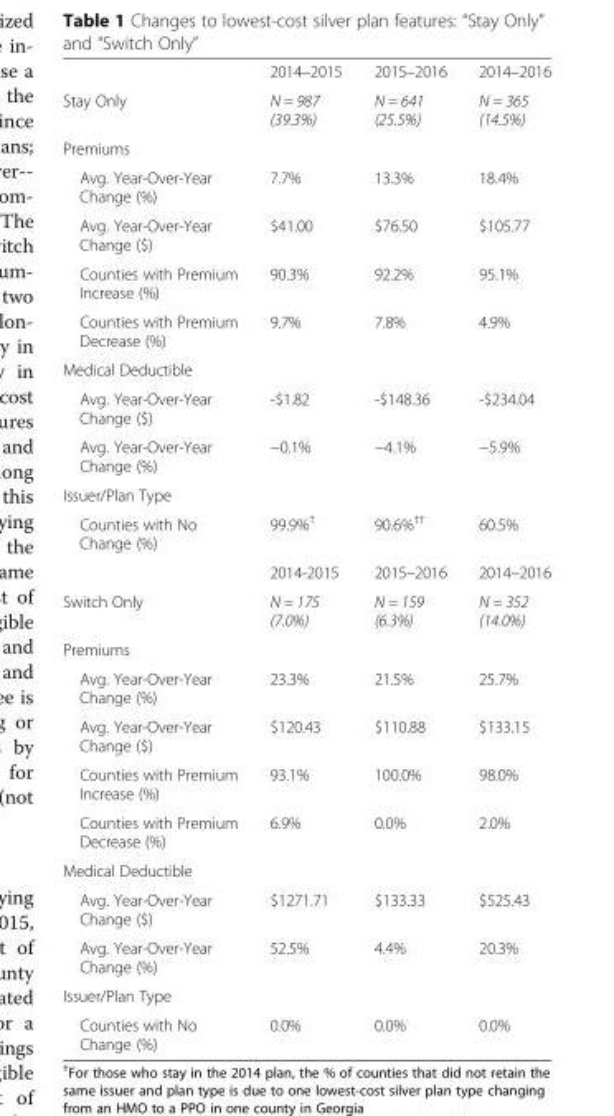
<table><thead><tr><td></td><td>2014–2015</td><td>2015–2016</td><td>2014–2016</td></tr></thead><tbody><tr><td>Stay Only</td><td>N = 987 (39.3%)</td><td>N = 641 (25.5%)</td><td>N = 365 (14.5%)</td></tr><tr><td colspan="4">Premiums</td></tr><tr><td>Avg. Year-Over-Year Change (%)</td><td>7.7%</td><td>13.3%</td><td>18.4%</td></tr><tr><td>Avg. Year-Over-Year Change ($)</td><td>$41.00</td><td>$76.50</td><td>$105.77</td></tr><tr><td>Counties with Premium Increase (%)</td><td>90.3%</td><td>92.2%</td><td>95.1%</td></tr><tr><td>Counties with Premium Decrease (%)</td><td>9.7%</td><td>7.8%</td><td>4.9%</td></tr><tr><td colspan="4">Medical Deductible</td></tr><tr><td>Avg. Year-Over-Year Change ($)</td><td>-$1.82</td><td>-$148.36</td><td>-$234.04</td></tr><tr><td>Avg. Year-Over-Year Change (%)</td><td>−0.1%</td><td>−4.1%</td><td>−5.9%</td></tr><tr><td colspan="4">Issuer/Plan Type</td></tr><tr><td rowspan="2">Counties with No Change (%)</td><td>99.9%<sup>†</sup></td><td>90.6%<sup>††</sup></td><td>60.5%</td></tr><tr><td>2014-2015</td><td>2015–2016</td><td>2014–2016</td></tr><tr><td>Switch Only</td><td>N = 175 (7.0%)</td><td>N = 159 (6.3%)</td><td>N = 352 (14.0%)</td></tr><tr><td colspan="4">Premiums</td></tr><tr><td>Avg. Year-Over-Year Change (%)</td><td>23.3%</td><td>21.5%</td><td>25.7%</td></tr><tr><td>Avg. Year-Over-Year Change ($)</td><td>$120.43</td><td>$110.88</td><td>$133.15</td></tr><tr><td>Counties with Premium Increase (%)</td><td>93.1%</td><td>100.0%</td><td>98.0%</td></tr><tr><td>Counties with Premium Decrease (%)</td><td>6.9%</td><td>0.0%</td><td>2.0%</td></tr><tr><td colspan="4">Medical Deductible</td></tr><tr><td>Avg. Year-Over-Year Change ($)</td><td>$1271.71</td><td>$133.33</td><td>$525.43</td></tr><tr><td>Avg. Year-Over-Year Change (%)</td><td>52.5%</td><td>4.4%</td><td>20.3%</td></tr><tr><td colspan="4">Issuer/Plan Type</td></tr><tr><td>Counties with No Change (%)</td><td>0.0%</td><td>0.0%</td><td>0.0%</td></tr></tbody></table>